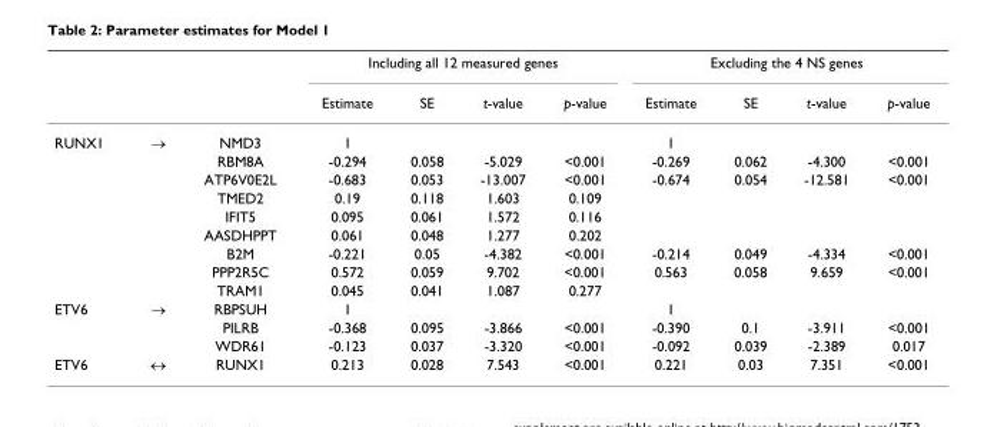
<table><thead><tr><td rowspan="2"></td><td rowspan="2"></td><td rowspan="2"></td><td colspan="4">Including all 12 measured genes</td><td colspan="4">Excluding the 4 NS genes</td></tr><tr><td>Estimate</td><td>SE</td><td>t-value</td><td>p-value</td><td>Estimate</td><td>SE</td><td>t-value</td><td>p-value</td></tr></thead><tbody><tr><td rowspan="9">RUNX1</td><td>→</td><td>NMD3</td><td>1</td><td></td><td></td><td></td><td>1</td><td></td><td></td><td></td></tr><tr><td></td><td>RBM8A</td><td>-0.294</td><td>0.058</td><td>-5.029</td><td>&lt;0.001</td><td>-0.269</td><td>0.062</td><td>-4.300</td><td>&lt;0.001</td></tr><tr><td></td><td>ATP6V0E2L</td><td>-0.683</td><td>0.053</td><td>-13.007</td><td>&lt;0.001</td><td>-0.674</td><td>0.054</td><td>-12.581</td><td>&lt;0.001</td></tr><tr><td></td><td>TMED2</td><td>0.19</td><td>0.118</td><td>1.603</td><td>0.109</td><td></td><td></td><td></td><td></td></tr><tr><td></td><td>IFIT5</td><td>0.095</td><td>0.061</td><td>1.572</td><td>0.116</td><td></td><td></td><td></td><td></td></tr><tr><td></td><td>AASDHPPT</td><td>0.061</td><td>0.048</td><td>1.277</td><td>0.202</td><td></td><td></td><td></td><td></td></tr><tr><td></td><td>B2M</td><td>-0.221</td><td>0.05</td><td>-4.382</td><td>&lt;0.001</td><td>-0.214</td><td>0.049</td><td>-4.334</td><td>&lt;0.001</td></tr><tr><td></td><td>PPP2R5C</td><td>0.572</td><td>0.059</td><td>9.702</td><td>&lt;0.001</td><td>0.563</td><td>0.058</td><td>9.659</td><td>&lt;0.001</td></tr><tr><td></td><td>TRAM1</td><td>0.045</td><td>0.041</td><td>1.087</td><td>0.277</td><td></td><td></td><td></td><td></td></tr><tr><td rowspan="3">ETV6</td><td>→</td><td>RBPSUH</td><td>1</td><td></td><td></td><td></td><td>1</td><td></td><td></td><td></td></tr><tr><td></td><td>PILRB</td><td>-0.368</td><td>0.095</td><td>-3.866</td><td>&lt;0.001</td><td>-0.390</td><td>0.1</td><td>-3.911</td><td>&lt;0.001</td></tr><tr><td></td><td>WDR61</td><td>-0.123</td><td>0.037</td><td>-3.320</td><td>&lt;0.001</td><td>-0.092</td><td>0.039</td><td>-2.389</td><td>0.017</td></tr><tr><td>ETV6</td><td>↔</td><td>RUNX1</td><td>0.213</td><td>0.028</td><td>7.543</td><td>&lt;0.001</td><td>0.221</td><td>0.03</td><td>7.351</td><td>&lt;0.001</td></tr></tbody></table>